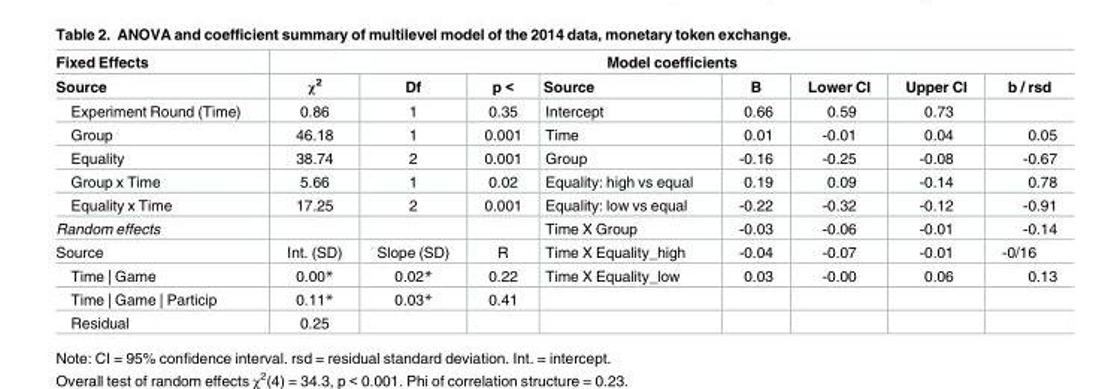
<table><thead><tr><td rowspan="2">Fixed Effects Source</td><td colspan="8">Model coefficients</td></tr><tr><td>χ<sup>2</sup></td><td>Df</td><td>p &lt;</td><td>Source</td><td>B</td><td>Lower CI</td><td>Upper CI</td><td>b / rsd</td></tr></thead><tbody><tr><td>Experiment Round (Time)</td><td>0.86</td><td>1</td><td>0.35</td><td>Intercept</td><td>0.66</td><td>0.59</td><td>0.73</td><td></td></tr><tr><td>Group</td><td>46.18</td><td>1</td><td>0.001</td><td>Time</td><td>0.01</td><td>-0.01</td><td>0.04</td><td>0.05</td></tr><tr><td>Equality</td><td>38.74</td><td>2</td><td>0.001</td><td>Group</td><td>-0.16</td><td>-0.25</td><td>-0.08</td><td>-0.67</td></tr><tr><td>Group x Time</td><td>5.66</td><td>1</td><td>0.02</td><td>Equality: high vs equal</td><td>0.19</td><td>0.09</td><td>-0.14</td><td>0.78</td></tr><tr><td>Equality x Time</td><td>17.25</td><td>2</td><td>0.001</td><td>Equality: low vs equal</td><td>-0.22</td><td>-0.32</td><td>-0.12</td><td>-0.91</td></tr><tr><td>Random effects</td><td></td><td></td><td></td><td>Time X Group</td><td>-0.03</td><td>-0.06</td><td>-0.01</td><td>-0.14</td></tr><tr><td>Source</td><td>Int. (SD)</td><td>Slope (SD)</td><td>R</td><td>Time X Equality_high</td><td>-0.04</td><td>-0.07</td><td>-0.01</td><td>-0/16</td></tr><tr><td>Time | Game</td><td>0.00*</td><td>0.02*</td><td>0.22</td><td>Time X Equality_low</td><td>0.03</td><td>-0.00</td><td>0.06</td><td>0.13</td></tr><tr><td>Time | Game | Particip</td><td>0.11*</td><td>0.03*</td><td>0.41</td><td></td><td></td><td></td><td></td><td></td></tr><tr><td>Residual</td><td>0.25</td><td></td><td></td><td></td><td></td><td></td><td></td><td></td></tr></tbody></table>